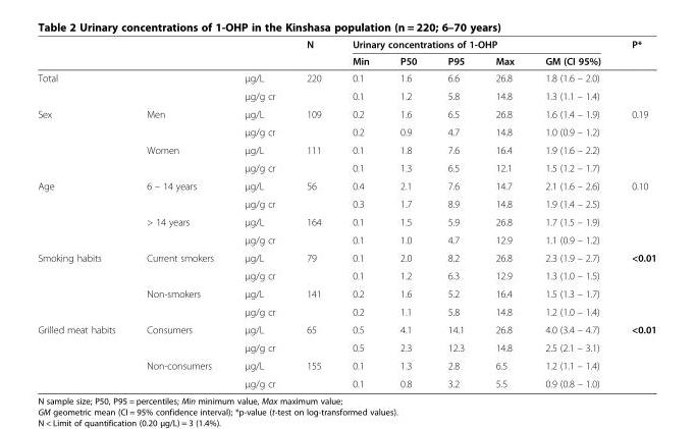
<table><thead><tr><td rowspan="2"></td><td rowspan="2"></td><td rowspan="2"></td><td rowspan="2">N</td><td colspan="5">Urinary concentrations of 1-OHP</td><td rowspan="2">P*</td></tr><tr><td>Min</td><td>P50</td><td>P95</td><td>Max</td><td>GM (CI 95%)</td></tr></thead><tbody><tr><td rowspan="2" colspan="2">Total</td><td>μg/L</td><td rowspan="2">220</td><td>0.1</td><td>1.6</td><td>6.6</td><td>26.8</td><td>1.8 (1.6 – 2.0)</td><td rowspan="2"></td></tr><tr><td>μg/g cr</td><td>0.1</td><td>1.2</td><td>5.8</td><td>14.8</td><td>1.3 (1.1 – 1.4)</td></tr><tr><td rowspan="4">Sex</td><td rowspan="2">Men</td><td>μg/L</td><td rowspan="2">109</td><td>0.2</td><td>1.6</td><td>6.5</td><td>26.8</td><td>1.6 (1.4 – 1.9)</td><td rowspan="4">0.19</td></tr><tr><td>μg/g cr</td><td>0.2</td><td>0.9</td><td>4.7</td><td>14.8</td><td>1.0 (0.9 – 1.2)</td></tr><tr><td rowspan="2">Women</td><td>μg/L</td><td rowspan="2">111</td><td>0.1</td><td>1.8</td><td>7.6</td><td>16.4</td><td>1.9 (1.6 – 2.2)</td></tr><tr><td>μg/g cr</td><td>0.1</td><td>1.3</td><td>6.5</td><td>12.1</td><td>1.5 (1.2 – 1.7)</td></tr><tr><td rowspan="4">Age</td><td rowspan="2">6 – 14 years</td><td>μg/L</td><td rowspan="2">56</td><td>0.4</td><td>2.1</td><td>7.6</td><td>14.7</td><td>2.1 (1.6 – 2.6)</td><td rowspan="4">0.10</td></tr><tr><td>μg/g cr</td><td>0.3</td><td>1.7</td><td>8.9</td><td>14.8</td><td>1.9 (1.4 – 2.5)</td></tr><tr><td rowspan="2">&gt; 14 years</td><td>μg/L</td><td rowspan="2">164</td><td>0.1</td><td>1.5</td><td>5.9</td><td>26.8</td><td>1.7 (1.5 – 1.9)</td></tr><tr><td>μg/g cr</td><td>0.1</td><td>1.0</td><td>4.7</td><td>12.9</td><td>1.1 (0.9 – 1.2)</td></tr><tr><td rowspan="4">Smoking habits</td><td rowspan="2">Current smokers</td><td>μg/L</td><td rowspan="2">79</td><td>0.1</td><td>2.0</td><td>8.2</td><td>26.8</td><td>2.3 (1.9 – 2.7)</td><td rowspan="4">&lt;0.01</td></tr><tr><td>μg/g cr</td><td>0.1</td><td>1.2</td><td>6.3</td><td>12.9</td><td>1.3 (1.0 – 1.5)</td></tr><tr><td rowspan="2">Non-smokers</td><td>μg/L</td><td rowspan="2">141</td><td>0.2</td><td>1.6</td><td>5.2</td><td>16.4</td><td>1.5 (1.3 – 1.7)</td></tr><tr><td>μg/g cr</td><td>0.2</td><td>1.1</td><td>5.8</td><td>14.8</td><td>1.2 (1.0 – 1.4)</td></tr><tr><td rowspan="4">Grilled meat habits</td><td rowspan="2">Consumers</td><td>μg/L</td><td rowspan="2">65</td><td>0.5</td><td>4.1</td><td>14.1</td><td>26.8</td><td>4.0 (3.4 – 4.7)</td><td rowspan="3">&lt;0.01</td></tr><tr><td>μg/g cr</td><td>0.5</td><td>2.3</td><td>12.3</td><td>14.8</td><td>2.5 (2.1 – 3.1)</td></tr><tr><td>Non-consumers</td><td>μg/L</td><td>155</td><td>0.1</td><td>1.3</td><td>2.8</td><td>6.5</td><td>1.2 (1.1 – 1.4)</td></tr><tr><td></td><td>μg/g cr</td><td></td><td>0.1</td><td>0.8</td><td>3.2</td><td>5.5</td><td>0.9 (0.8 – 1.0)</td><td></td></tr></tbody></table>